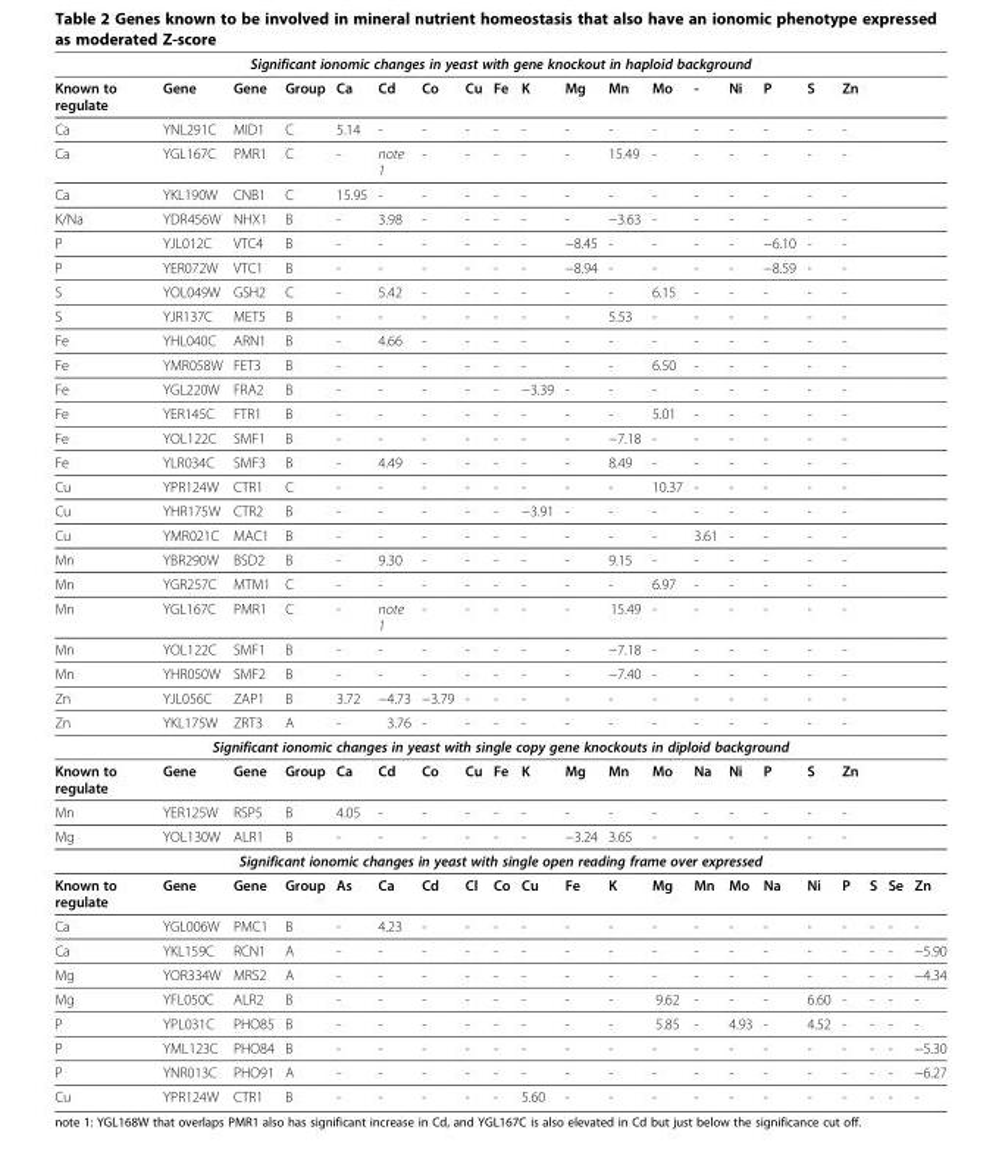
<table><thead><tr><td colspan="21">Significant ionomic changes in yeast with gene knockout in haploid background</td></tr><tr><td>Known to regulate</td><td>Gene</td><td>Gene</td><td>Group</td><td>Ca</td><td>Cd</td><td>Co</td><td>Cu</td><td>Fe</td><td>K</td><td>Mg</td><td>Mn</td><td>Mo</td><td>-</td><td>Ni</td><td>P</td><td>S</td><td>Zn</td><td></td><td></td><td></td></tr></thead><tbody><tr><td>Ca</td><td>YNL291C</td><td>MID1</td><td>C</td><td>5.14</td><td>-</td><td>-</td><td>-</td><td>-</td><td>-</td><td>-</td><td>-</td><td>-</td><td>-</td><td>-</td><td>-</td><td>-</td><td>-</td><td></td><td></td><td></td></tr><tr><td>Ca</td><td>YGL167C</td><td>PMR1</td><td>C</td><td>-</td><td>note 1</td><td>-</td><td>-</td><td>-</td><td>-</td><td>-</td><td>15.49</td><td>-</td><td>-</td><td>-</td><td>-</td><td>-</td><td>-</td><td></td><td></td><td></td></tr><tr><td>Ca</td><td>YKL190W</td><td>CNB1</td><td>C</td><td>15.95</td><td>-</td><td>-</td><td>-</td><td>-</td><td>-</td><td>-</td><td>-</td><td>-</td><td>-</td><td>-</td><td>-</td><td>-</td><td>-</td><td></td><td></td><td></td></tr><tr><td>K/Na</td><td>YDR456W</td><td>NHX1</td><td>B</td><td>-</td><td>3.98</td><td>-</td><td>-</td><td>-</td><td>-</td><td>-</td><td>−3.63</td><td>-</td><td>-</td><td>-</td><td>-</td><td>-</td><td>-</td><td></td><td></td><td></td></tr><tr><td>P</td><td>YJL012C</td><td>VTC4</td><td>B</td><td>-</td><td>-</td><td>-</td><td>-</td><td>-</td><td>-</td><td>−8.45</td><td>-</td><td>-</td><td>-</td><td>-</td><td>−6.10</td><td>-</td><td>-</td><td></td><td></td><td></td></tr><tr><td>P</td><td>YER072W</td><td>VTC1</td><td>B</td><td>-</td><td>-</td><td>-</td><td>-</td><td>-</td><td>-</td><td>−8.94</td><td>-</td><td>-</td><td>-</td><td>-</td><td>−8.59</td><td>-</td><td>-</td><td></td><td></td><td></td></tr><tr><td>S</td><td>YOL049W</td><td>GSH2</td><td>C</td><td>-</td><td>5.42</td><td>-</td><td>-</td><td>-</td><td>-</td><td>-</td><td>-</td><td>6.15</td><td>-</td><td>-</td><td>-</td><td>-</td><td>-</td><td></td><td></td><td></td></tr><tr><td>S</td><td>YJR137C</td><td>MET5</td><td>B</td><td>-</td><td>-</td><td>-</td><td>-</td><td>-</td><td>-</td><td>-</td><td>5.53</td><td>-</td><td>-</td><td>-</td><td>-</td><td>-</td><td>-</td><td></td><td></td><td></td></tr><tr><td>Fe</td><td>YHL040C</td><td>ARN1</td><td>B</td><td>-</td><td>4.66</td><td>-</td><td>-</td><td>-</td><td>-</td><td>-</td><td>-</td><td>-</td><td>-</td><td>-</td><td>-</td><td>-</td><td>-</td><td></td><td></td><td></td></tr><tr><td>Fe</td><td>YMR058W</td><td>FET3</td><td>B</td><td>-</td><td>-</td><td>-</td><td>-</td><td>-</td><td>-</td><td>-</td><td>-</td><td>6.50</td><td>-</td><td>-</td><td>-</td><td>-</td><td>-</td><td></td><td></td><td></td></tr><tr><td>Fe</td><td>YGL220W</td><td>FRA2</td><td>B</td><td>-</td><td>-</td><td>-</td><td>-</td><td>-</td><td>−3.39</td><td>-</td><td>-</td><td>-</td><td>-</td><td>-</td><td>-</td><td>-</td><td>-</td><td></td><td></td><td></td></tr><tr><td>Fe</td><td>YER145C</td><td>FTR1</td><td>B</td><td>-</td><td>-</td><td>-</td><td>-</td><td>-</td><td>-</td><td>-</td><td>-</td><td>5.01</td><td>-</td><td>-</td><td>-</td><td>-</td><td>-</td><td></td><td></td><td></td></tr><tr><td>Fe</td><td>YOL122C</td><td>SMF1</td><td>B</td><td>-</td><td>-</td><td>-</td><td>-</td><td>-</td><td>-</td><td>-</td><td>−7.18</td><td>-</td><td>-</td><td>-</td><td>-</td><td>-</td><td>-</td><td></td><td></td><td></td></tr><tr><td>Fe</td><td>YLR034C</td><td>SMF3</td><td>B</td><td>-</td><td>4.49</td><td>-</td><td>-</td><td>-</td><td>-</td><td>-</td><td>8.49</td><td>-</td><td>-</td><td>-</td><td>-</td><td>-</td><td>-</td><td></td><td></td><td></td></tr><tr><td>Cu</td><td>YPR124W</td><td>CTR1</td><td>C</td><td>-</td><td>-</td><td>-</td><td>-</td><td>-</td><td>-</td><td>-</td><td>-</td><td>10.37</td><td>-</td><td>-</td><td>-</td><td>-</td><td>-</td><td></td><td></td><td></td></tr><tr><td>Cu</td><td>YHR175W</td><td>CTR2</td><td>B</td><td>-</td><td>-</td><td>-</td><td>-</td><td>-</td><td>−3.91</td><td>-</td><td>-</td><td>-</td><td>-</td><td>-</td><td>-</td><td>-</td><td>-</td><td></td><td></td><td></td></tr><tr><td>Cu</td><td>YMR021C</td><td>MAC1</td><td>B</td><td>-</td><td>-</td><td>-</td><td>-</td><td>-</td><td>-</td><td>-</td><td>-</td><td>-</td><td>3.61</td><td>-</td><td>-</td><td>-</td><td>-</td><td></td><td></td><td></td></tr><tr><td>Mn</td><td>YBR290W</td><td>BSD2</td><td>B</td><td>-</td><td>9.30</td><td>-</td><td>-</td><td>-</td><td>-</td><td>-</td><td>9.15</td><td>-</td><td>-</td><td>-</td><td>-</td><td>-</td><td>-</td><td></td><td></td><td></td></tr><tr><td>Mn</td><td>YGR257C</td><td>MTM1</td><td>C</td><td>-</td><td>-</td><td>-</td><td>-</td><td>-</td><td>-</td><td>-</td><td>-</td><td>6.97</td><td>-</td><td>-</td><td>-</td><td>-</td><td>-</td><td></td><td></td><td></td></tr><tr><td>Mn</td><td>YGL167C</td><td>PMR1</td><td>C</td><td>-</td><td>note 1</td><td>-</td><td>-</td><td>-</td><td>-</td><td>-</td><td>15.49</td><td>-</td><td>-</td><td>-</td><td>-</td><td>-</td><td>-</td><td></td><td></td><td></td></tr><tr><td>Mn</td><td>YOL122C</td><td>SMF1</td><td>B</td><td>-</td><td>-</td><td>-</td><td>-</td><td>-</td><td>-</td><td>-</td><td>−7.18</td><td>-</td><td>-</td><td>-</td><td>-</td><td>-</td><td>-</td><td></td><td></td><td></td></tr><tr><td>Mn</td><td>YHR050W</td><td>SMF2</td><td>B</td><td>-</td><td>-</td><td>-</td><td>-</td><td>-</td><td>-</td><td>-</td><td>−7.40</td><td>-</td><td>-</td><td>-</td><td>-</td><td>-</td><td>-</td><td></td><td></td><td></td></tr><tr><td>Zn</td><td>YJL056C</td><td>ZAP1</td><td>B</td><td>3.72</td><td>−4.73</td><td>−3.79</td><td>-</td><td>-</td><td>-</td><td>-</td><td>-</td><td>-</td><td>-</td><td>-</td><td>-</td><td>-</td><td>-</td><td></td><td></td><td></td></tr><tr><td>Zn</td><td>YKL175W</td><td>ZRT3</td><td>A</td><td>-</td><td>3.76</td><td>-</td><td>-</td><td>-</td><td>-</td><td>-</td><td>-</td><td>-</td><td>-</td><td>-</td><td>-</td><td>-</td><td>-</td><td></td><td></td><td></td></tr><tr><td colspan="21">Significant ionomic changes in yeast with single copy gene knockouts in diploid background</td></tr><tr><td>Known to regulate</td><td>Gene</td><td>Gene</td><td>Group</td><td>Ca</td><td>Cd</td><td>Co</td><td>Cu</td><td>Fe</td><td>K</td><td>Mg</td><td>Mn</td><td>Mo</td><td>Na</td><td>Ni</td><td>P</td><td>S</td><td>Zn</td><td></td><td></td><td></td></tr><tr><td>Mn</td><td>YER125W</td><td>RSP5</td><td>B</td><td>4.05</td><td>-</td><td>-</td><td>-</td><td>-</td><td>-</td><td>-</td><td>-</td><td>-</td><td>-</td><td>-</td><td>-</td><td>-</td><td>-</td><td></td><td></td><td></td></tr><tr><td>Mg</td><td>YOL130W</td><td>ALR1</td><td>B</td><td>-</td><td>-</td><td>-</td><td>-</td><td>-</td><td>-</td><td>−3.24</td><td>3.65</td><td>-</td><td>-</td><td>-</td><td>-</td><td>-</td><td>-</td><td></td><td></td><td></td></tr><tr><td colspan="21">Significant ionomic changes in yeast with single open reading frame over expressed</td></tr><tr><td>Known to regulate</td><td>Gene</td><td>Gene</td><td>Group</td><td>As</td><td>Ca</td><td>Cd</td><td>Cl</td><td>Co</td><td>Cu</td><td>Fe</td><td>K</td><td>Mg</td><td>Mn</td><td>Mo</td><td>Na</td><td>Ni</td><td>P</td><td>S</td><td>Se</td><td>Zn</td></tr><tr><td>Ca</td><td>YGL006W</td><td>PMC1</td><td>B</td><td>-</td><td>4.23</td><td>-</td><td>-</td><td>-</td><td>-</td><td>-</td><td>-</td><td>-</td><td>-</td><td>-</td><td>-</td><td>-</td><td>-</td><td>-</td><td>-</td><td>-</td></tr><tr><td>Ca</td><td>YKL159C</td><td>RCN1</td><td>A</td><td>-</td><td>-</td><td>-</td><td>-</td><td>-</td><td>-</td><td>-</td><td>-</td><td>-</td><td>-</td><td>-</td><td>-</td><td>-</td><td>-</td><td>-</td><td>-</td><td>−5.90</td></tr><tr><td>Mg</td><td>YOR334W</td><td>MRS2</td><td>A</td><td>-</td><td>-</td><td>-</td><td>-</td><td>-</td><td>-</td><td>-</td><td>-</td><td>-</td><td>-</td><td>-</td><td>-</td><td>-</td><td>-</td><td>-</td><td>-</td><td>−4.34</td></tr><tr><td>Mg</td><td>YFL050C</td><td>ALR2</td><td>B</td><td>-</td><td>-</td><td>-</td><td>-</td><td>-</td><td>-</td><td>-</td><td>-</td><td>9.62</td><td>-</td><td>-</td><td>-</td><td>6.60</td><td>-</td><td>-</td><td>-</td><td>-</td></tr><tr><td>P</td><td>YPL031C</td><td>PHO85</td><td>B</td><td>-</td><td>-</td><td>-</td><td>-</td><td>-</td><td>-</td><td>-</td><td>-</td><td>5.85</td><td>-</td><td>4.93</td><td>-</td><td>4.52</td><td>-</td><td>-</td><td>-</td><td>-</td></tr><tr><td>P</td><td>YML123C</td><td>PHO84</td><td>B</td><td>-</td><td>-</td><td>-</td><td>-</td><td>-</td><td>-</td><td>-</td><td>-</td><td>-</td><td>-</td><td>-</td><td>-</td><td>-</td><td>-</td><td>-</td><td>-</td><td>−5.30</td></tr><tr><td>P</td><td>YNR013C</td><td>PHO91</td><td>A</td><td>-</td><td>-</td><td>-</td><td>-</td><td>-</td><td>-</td><td>-</td><td>-</td><td>-</td><td>-</td><td>-</td><td>-</td><td>-</td><td>-</td><td>-</td><td>-</td><td>−6.27</td></tr><tr><td>Cu</td><td>YPR124W</td><td>CTR1</td><td>B</td><td>-</td><td>-</td><td>-</td><td>-</td><td>-</td><td>5.60</td><td>-</td><td>-</td><td>-</td><td>-</td><td>-</td><td>-</td><td>-</td><td>-</td><td>-</td><td>-</td><td>-</td></tr></tbody></table>